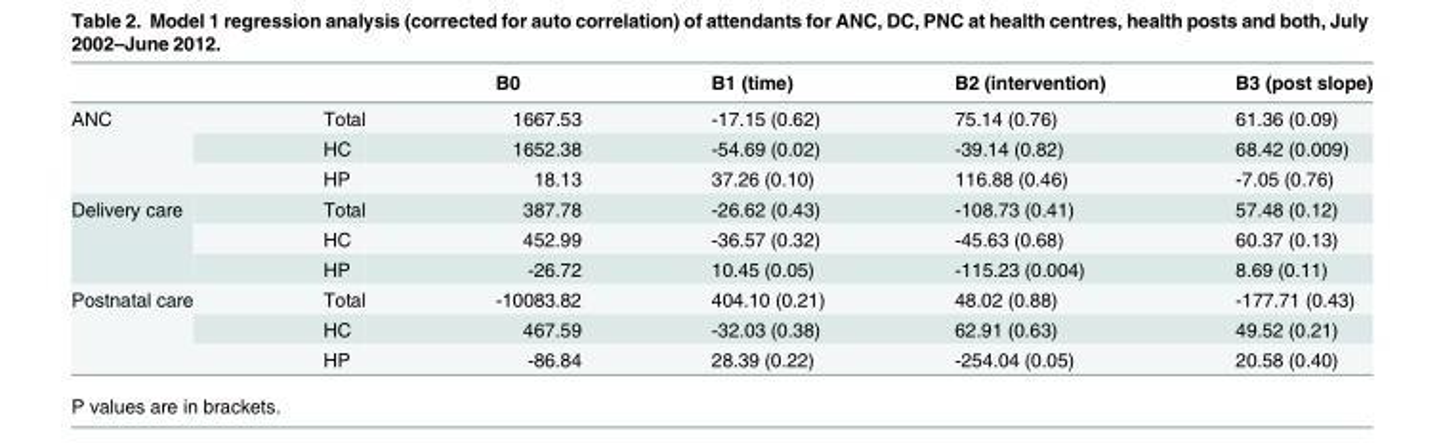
<table><thead><tr><td></td><td></td><td>B0</td><td>B1 (time)</td><td>B2 (intervention)</td><td>B3 (post slope)</td></tr></thead><tbody><tr><td rowspan="3">ANC</td><td>Total</td><td>1667.53</td><td>-17.15 (0.62)</td><td>75.14 (0.76)</td><td>61.36 (0.09)</td></tr><tr><td>HC</td><td>1652.38</td><td>-54.69 (0.02)</td><td>-39.14 (0.82)</td><td>68.42 (0.009)</td></tr><tr><td>HP</td><td>18.13</td><td>37.26 (0.10)</td><td>116.88 (0.46)</td><td>-7.05 (0.76)</td></tr><tr><td rowspan="3">Delivery care</td><td>Total</td><td>387.78</td><td>-26.62 (0.43)</td><td>-108.73 (0.41)</td><td>57.48 (0.12)</td></tr><tr><td>HC</td><td>452.99</td><td>-36.57 (0.32)</td><td>-45.63 (0.68)</td><td>60.37 (0.13)</td></tr><tr><td>HP</td><td>-26.72</td><td>10.45 (0.05)</td><td>-115.23 (0.004)</td><td>8.69 (0.11)</td></tr><tr><td rowspan="3">Postnatal care</td><td>Total</td><td>-10083.82</td><td>404.10 (0.21)</td><td>48.02 (0.88)</td><td>-177.71 (0.43)</td></tr><tr><td>HC</td><td>467.59</td><td>-32.03 (0.38)</td><td>62.91 (0.63)</td><td>49.52 (0.21)</td></tr><tr><td>HP</td><td>-86.84</td><td>28.39 (0.22)</td><td>-254.04 (0.05)</td><td>20.58 (0.40)</td></tr></tbody></table>